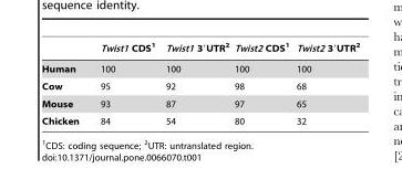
<table><thead><tr><td></td><td>Twist1 CDS<sup>1</sup></td><td>Twist1 3′UTR<sup>2</sup></td><td>Twist2 CDS<sup>1</sup></td><td>Twist2 3′UTR<sup>2</sup></td></tr></thead><tbody><tr><td>Human</td><td>100</td><td>100</td><td>100</td><td>100</td></tr><tr><td>Cow</td><td>95</td><td>92</td><td>98</td><td>68</td></tr><tr><td>Mouse</td><td>93</td><td>87</td><td>97</td><td>65</td></tr><tr><td>Chicken</td><td>84</td><td>54</td><td>80</td><td>32</td></tr></tbody></table>